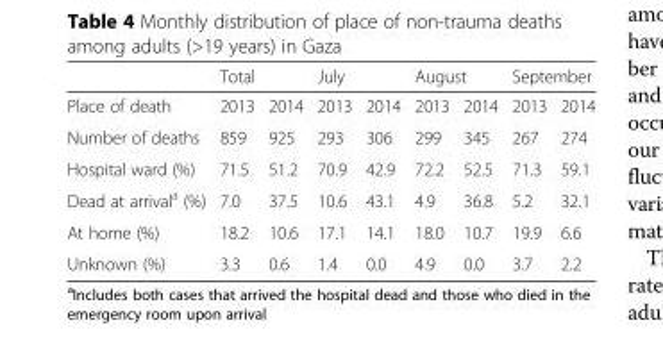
<table><thead><tr><td rowspan="2">Place of death</td><td colspan="2">Total</td><td colspan="2">July</td><td colspan="2">August</td><td colspan="2">September</td></tr><tr><td>2013</td><td>2014</td><td>2013</td><td>2014</td><td>2013</td><td>2014</td><td>2013</td><td>2014</td></tr></thead><tbody><tr><td>Number of deaths</td><td>859</td><td>925</td><td>293</td><td>306</td><td>299</td><td>345</td><td>267</td><td>274</td></tr><tr><td>Hospital ward (%)</td><td>71.5</td><td>51.2</td><td>70.9</td><td>42.9</td><td>72.2</td><td>52.5</td><td>71.3</td><td>59.1</td></tr><tr><td>Dead at arrival<sup>a</sup> (%)</td><td>7.0</td><td>37.5</td><td>10.6</td><td>43.1</td><td>4.9</td><td>36.8</td><td>5.2</td><td>32.1</td></tr><tr><td>At home (%)</td><td>18.2</td><td>10.6</td><td>17.1</td><td>14.1</td><td>18.0</td><td>10.7</td><td>19.9</td><td>6.6</td></tr><tr><td>Unknown (%)</td><td>3.3</td><td>0.6</td><td>1.4</td><td>0.0</td><td>4.9</td><td>0.0</td><td>3.7</td><td>2.2</td></tr></tbody></table>